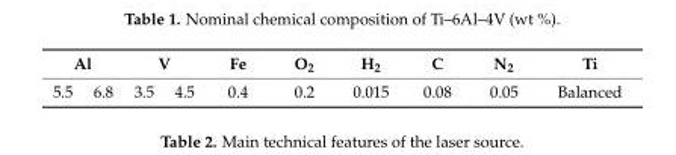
<table><thead><tr><td colspan="2">Al</td><td colspan="2">V</td><td rowspan="2">Fe 0.4</td><td rowspan="2">O<sub>2</sub> 0.2</td><td rowspan="2">H<sub>2</sub> 0.015</td><td rowspan="2">C 0.08</td><td rowspan="2">N<sub>2</sub> 0.05</td><td rowspan="2">Ti Balanced</td></tr><tr><td>5.5</td><td>6.8</td><td>3.5</td><td>4.5</td></tr></thead><tbody></tbody></table>